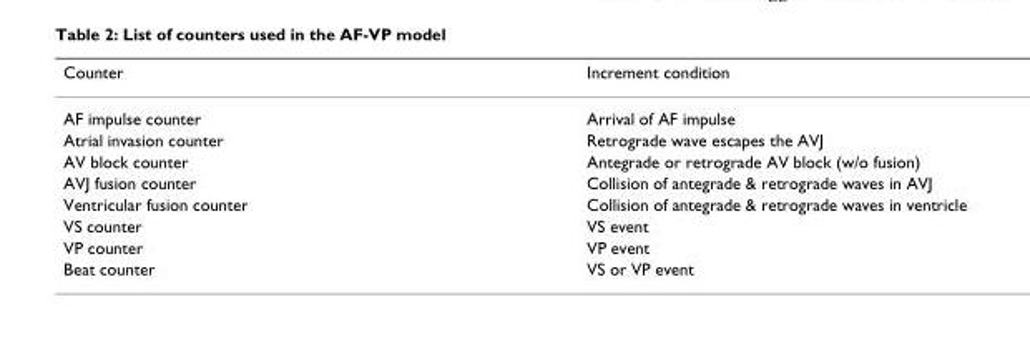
<table><thead><tr><td>Counter</td><td>Increment condition</td></tr></thead><tbody><tr><td>AF impulse counter</td><td>Arrival of AF impulse</td></tr><tr><td>Atrial invasion counter</td><td>Retrograde wave escapes the AVJ</td></tr><tr><td>AV block counter</td><td>Antegrade or retrograde AV block (w/o fusion)</td></tr><tr><td>AVJ fusion counter</td><td>Collision of antegrade &amp; retrograde waves in AVJ</td></tr><tr><td>Ventricular fusion counter</td><td>Collision of antegrade &amp; retrograde waves in ventricle</td></tr><tr><td>VS counter</td><td>VS event</td></tr><tr><td>VP counter</td><td>VP event</td></tr><tr><td>Beat counter</td><td>VS or VP event</td></tr></tbody></table>